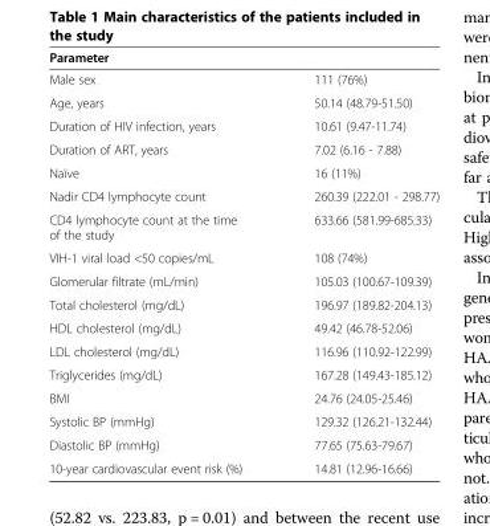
<table><thead><tr><td>Parameter</td><td></td></tr></thead><tbody><tr><td>Male sex</td><td>111 (76%)</td></tr><tr><td>Age, years</td><td>50.14 (48.79-51.50)</td></tr><tr><td>Duration of HIV infection, years</td><td>10.61 (9.47-11.74)</td></tr><tr><td>Duration of ART, years</td><td>7.02 (6.16 - 7.88)</td></tr><tr><td>Naïve</td><td>16 (11%)</td></tr><tr><td>Nadir CD4 lymphocyte count</td><td>260.39 (222.01 - 298.77)</td></tr><tr><td>CD4 lymphocyte count at the time of the study</td><td>633.66 (581.99-685.33)</td></tr><tr><td>VIH-1 viral load &lt;50 copies/mL</td><td>108 (74%)</td></tr><tr><td>Glomerular filtrate (mL/min)</td><td>105.03 (100.67-109.39)</td></tr><tr><td>Total cholesterol (mg/dL)</td><td>196.97 (189.82-204.13)</td></tr><tr><td>HDL cholesterol (mg/dL)</td><td>49.42 (46.78-52.06)</td></tr><tr><td>LDL cholesterol (mg/dL)</td><td>116.96 (110.92-122.99)</td></tr><tr><td>Triglycerides (mg/dL)</td><td>167.28 (149.43-185.12)</td></tr><tr><td>BMI</td><td>24.76 (24.05-25.46)</td></tr><tr><td>Systolic BP (mmHg)</td><td>129.32 (126.21-132.44)</td></tr><tr><td>Diastolic BP (mmHg)</td><td>77.65 (75.63-79.67)</td></tr><tr><td>10-year cardiovascular event risk (%)</td><td>14.81 (12.96-16.66)</td></tr></tbody></table>